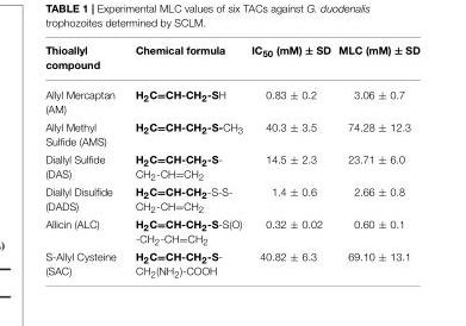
<table><thead><tr><td>Thioallyl compound</td><td>Chemical formula</td><td>IC<sub>50</sub> (mM) ± SD</td><td>MLC (mM) ± SD</td></tr></thead><tbody><tr><td>Allyl Mercaptan (AM)</td><td>H<sub>2</sub>C=CH-CH<sub>2</sub>-SH</td><td>0.83 ± 0.2</td><td>3.06 ± 0.7</td></tr><tr><td>Allyl Methyl Sulfide (AMS)</td><td>H<sub>2</sub>C=CH-CH<sub>2</sub>-S-CH<sub>3</sub></td><td>40.3 ± 3.5</td><td>74.28 ± 12.3</td></tr><tr><td>Diallyl Sulfide (DAS)</td><td>H<sub>2</sub>C=CH-CH<sub>2</sub>-S- CH<sub>2</sub>-CH=CH<sub>2</sub></td><td>14.5 ± 2.3</td><td>23.71 ± 6.0</td></tr><tr><td>Diallyl Disulfide (DADS)</td><td>H<sub>2</sub>C=CH-CH<sub>2</sub>-S-S- CH<sub>2</sub>-CH=CH<sub>2</sub></td><td>1.4 ± 0.6</td><td>2.66 ± 0.8</td></tr><tr><td>Allicin (ALC)</td><td>H<sub>2</sub>C=CH-CH<sub>2</sub>-S-S(O) -CH<sub>2</sub>-CH=CH<sub>2</sub></td><td>0.32 ± 0.02</td><td>0.60 ± 0.1</td></tr><tr><td>S-Allyl Cysteine (SAC)</td><td>H<sub>2</sub>C=CH-CH<sub>2</sub>-S- CH<sub>2</sub>(NH<sub>2</sub>)-COOH</td><td>40.82 ± 6.3</td><td>69.10 ± 13.1</td></tr></tbody></table>